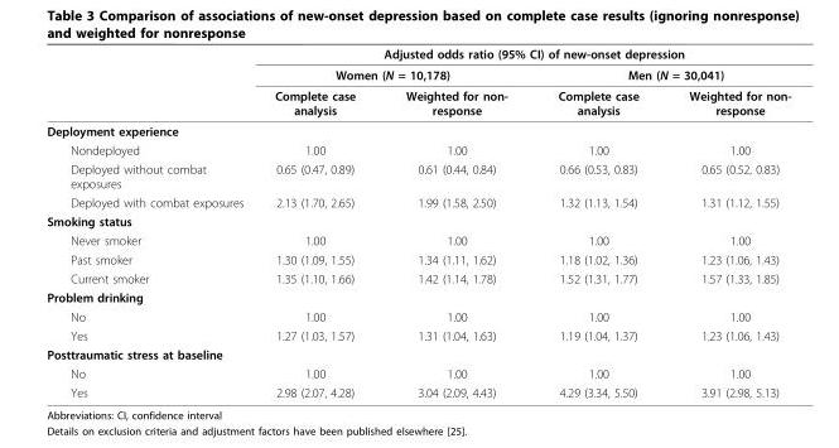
<table><thead><tr><td rowspan="3"></td><td colspan="4">Adjusted odds ratio (95% CI) of new-onset depression</td></tr><tr><td colspan="2">Women (N = 10,178)</td><td colspan="2">Men (N = 30,041)</td></tr><tr><td>Complete case analysis</td><td>Weighted for non- response</td><td>Complete case analysis</td><td>Weighted for non- response</td></tr></thead><tbody><tr><td colspan="5">Deployment experience</td></tr><tr><td>Nondeployed</td><td>1.00</td><td>1.00</td><td>1.00</td><td>1.00</td></tr><tr><td>Deployed without combat exposures</td><td>0.65 (0.47, 0.89)</td><td>0.61 (0.44, 0.84)</td><td>0.66 (0.53, 0.83)</td><td>0.65 (0.52, 0.83)</td></tr><tr><td>Deployed with combat exposures</td><td>2.13 (1.70, 2.65)</td><td>1.99 (1.58, 2.50)</td><td>1.32 (1.13, 1.54)</td><td>1.31 (1.12, 1.55)</td></tr><tr><td colspan="5">Smoking status</td></tr><tr><td>Never smoker</td><td>1.00</td><td>1.00</td><td>1.00</td><td>1.00</td></tr><tr><td>Past smoker</td><td>1.30 (1.09, 1.55)</td><td>1.34 (1.11, 1.62)</td><td>1.18 (1.02, 1.36)</td><td>1.23 (1.06, 1.43)</td></tr><tr><td>Current smoker</td><td>1.35 (1.10, 1.66)</td><td>1.42 (1.14, 1.78)</td><td>1.52 (1.31, 1.77)</td><td>1.57 (1.33, 1.85)</td></tr><tr><td colspan="5">Problem drinking</td></tr><tr><td>No</td><td>1.00</td><td>1.00</td><td>1.00</td><td>1.00</td></tr><tr><td>Yes</td><td>1.27 (1.03, 1.57)</td><td>1.31 (1.04, 1.63)</td><td>1.19 (1.04, 1.37)</td><td>1.23 (1.06, 1.43)</td></tr><tr><td colspan="5">Posttraumatic stress at baseline</td></tr><tr><td>No</td><td>1.00</td><td>1.00</td><td>1.00</td><td>1.00</td></tr><tr><td>Yes</td><td>2.98 (2.07, 4.28)</td><td>3.04 (2.09, 4.43)</td><td>4.29 (3.34, 5.50)</td><td>3.91 (2.98, 5.13)</td></tr></tbody></table>